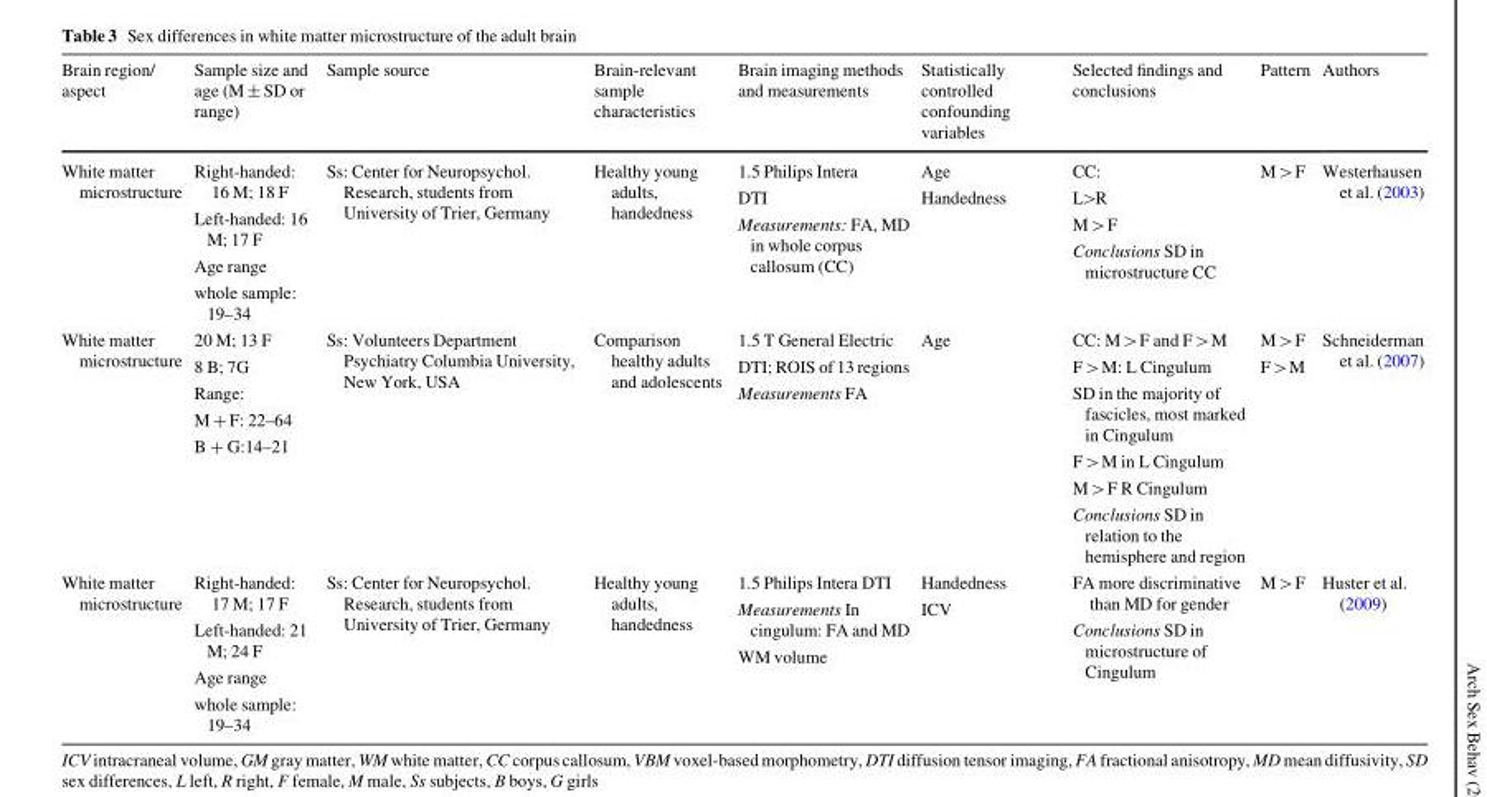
<table><thead><tr><td>Brain region/ aspect</td><td>Sample size and age (M ± SD or range)</td><td>Sample source</td><td>Brain-relevant sample characteristics</td><td>Brain imaging methods and measurements</td><td>Statistically controlled confounding variables</td><td>Selected findings and conclusions</td><td>Pattern</td><td>Authors</td></tr></thead><tbody><tr><td>White matter microstructure</td><td>Right-handed: 16 M; 18 F Left-handed: 16 M; 17 F Age range whole sample: 19–34</td><td>Ss: Center for Neuropsychol. Research, students from University of Trier, Germany</td><td>Healthy young adults, handedness</td><td>1.5 Philips Intera DTI Measurements: FA, MD in whole corpus callosum (CC)</td><td>Age Handedness</td><td>CC: L&gt;R M&gt;F Conclusions SD in microstructure CC</td><td>M&gt;F</td><td>Westerhausen et al. (2003)</td></tr><tr><td>White matter microstructure</td><td>20 M; 13 F 8 B; 7G Range: M + F: 22–64 B + G:14–21</td><td>Ss: Volunteers Department Psychiatry Columbia University, New York, USA</td><td>Comparison healthy adults and adolescents</td><td>1.5 T General Electric DTI; ROIS of 13 regions Measurements FA</td><td>Age</td><td>CC: M&gt;F and F&gt;M F&gt;M: L Cingulum SD in the majority of fascicles, most marked in Cingulum F&gt;M in L Cingulum M&gt;F R Cingulum Conclusions SD in relation to the hemisphere and region</td><td>M&gt;F F&gt;M</td><td>Schneiderman et al. (2007)</td></tr><tr><td>White matter microstructure</td><td>Right-handed: 17 M; 17 F Left-handed: 21 M; 24 F Age range whole sample: 19–34</td><td>Ss: Center for Neuropsychol. Research, students from University of Trier, Germany</td><td>Healthy young adults, handedness</td><td>1.5 Philips Intera DTI Measurements In cingulum: FA and MD WM volume</td><td>Handedness ICV</td><td>FA more discriminative than MD for gender Conclusions SD in microstructure of Cingulum</td><td>M&gt;F</td><td>Huster et al. (2009)</td></tr></tbody></table>